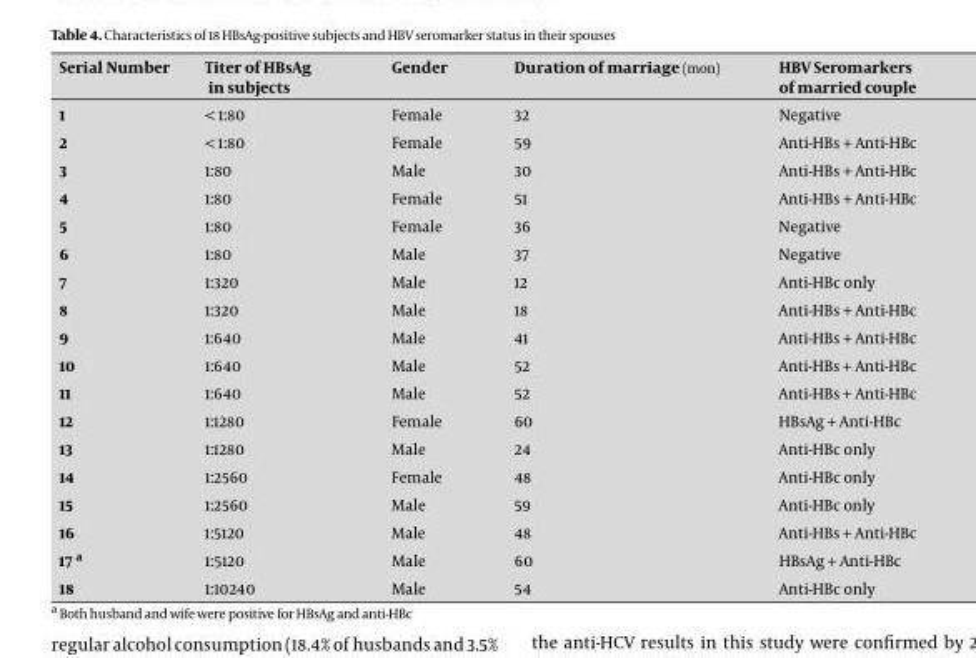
<table><thead><tr><td>Serial Number</td><td>Titer of HBsAg in subjects</td><td>Gender</td><td>Duration of marriage (mon)</td><td>HBV Seromarkers of married couple</td></tr></thead><tbody><tr><td>1</td><td>&lt; 1:80</td><td>Female</td><td>32</td><td>Negative</td></tr><tr><td>2</td><td>&lt; 1:80</td><td>Female</td><td>59</td><td>Anti-HBs + Anti-HBc</td></tr><tr><td>3</td><td>1:80</td><td>Male</td><td>30</td><td>Anti-HBs + Anti-HBc</td></tr><tr><td>4</td><td>1:80</td><td>Female</td><td>51</td><td>Anti-HBs + Anti-HBc</td></tr><tr><td>5</td><td>1:80</td><td>Female</td><td>36</td><td>Negative</td></tr><tr><td>6</td><td>1:80</td><td>Male</td><td>37</td><td>Negative</td></tr><tr><td>7</td><td>1:320</td><td>Male</td><td>12</td><td>Anti-HBc only</td></tr><tr><td>8</td><td>1:320</td><td>Male</td><td>18</td><td>Anti-HBs + Anti-HBc</td></tr><tr><td>9</td><td>1:640</td><td>Male</td><td>41</td><td>Anti-HBs + Anti-HBc</td></tr><tr><td>10</td><td>1:640</td><td>Male</td><td>52</td><td>Anti-HBs + Anti-HBc</td></tr><tr><td>11</td><td>1:640</td><td>Male</td><td>52</td><td>Anti-HBs + Anti-HBc</td></tr><tr><td>12</td><td>1:1280</td><td>Female</td><td>60</td><td>HBsAg + Anti-HBc</td></tr><tr><td>13</td><td>1:1280</td><td>Male</td><td>24</td><td>Anti-HBc only</td></tr><tr><td>14</td><td>1:2560</td><td>Female</td><td>48</td><td>Anti-HBc only</td></tr><tr><td>15</td><td>1:2560</td><td>Male</td><td>59</td><td>Anti-HBc only</td></tr><tr><td>16</td><td>1:5120</td><td>Male</td><td>48</td><td>Anti-HBs + Anti-HBc</td></tr><tr><td>17 a</td><td>1:5120</td><td>Male</td><td>60</td><td>HBsAg + Anti-HBc</td></tr><tr><td>18</td><td>1:10240</td><td>Male</td><td>54</td><td>Anti-HBc only</td></tr></tbody></table>